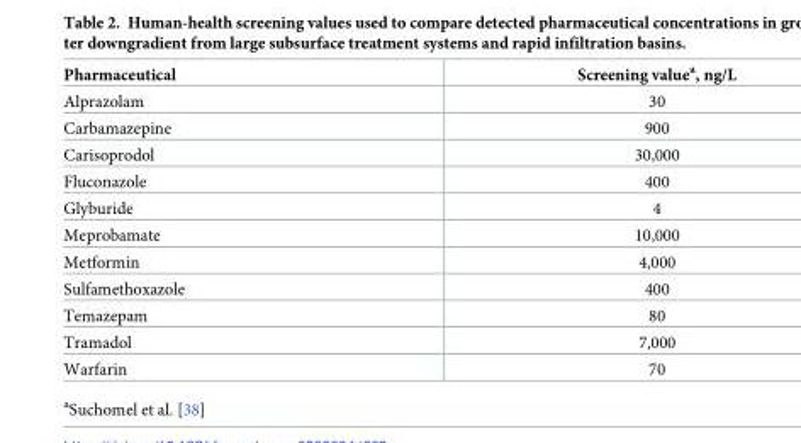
<table><thead><tr><td>Pharmaceutical</td><td>Screening value<sup>a</sup>, ng/L</td></tr></thead><tbody><tr><td>Alprazolam</td><td>30</td></tr><tr><td>Carbamazepine</td><td>900</td></tr><tr><td>Carisoprodol</td><td>30,000</td></tr><tr><td>Fluconazole</td><td>400</td></tr><tr><td>Glyburide</td><td>4</td></tr><tr><td>Meprobamate</td><td>10,000</td></tr><tr><td>Metformin</td><td>4,000</td></tr><tr><td>Sulfamethoxazole</td><td>400</td></tr><tr><td>Temazepam</td><td>80</td></tr><tr><td>Tramadol</td><td>7,000</td></tr><tr><td>Warfarin</td><td>70</td></tr></tbody></table>